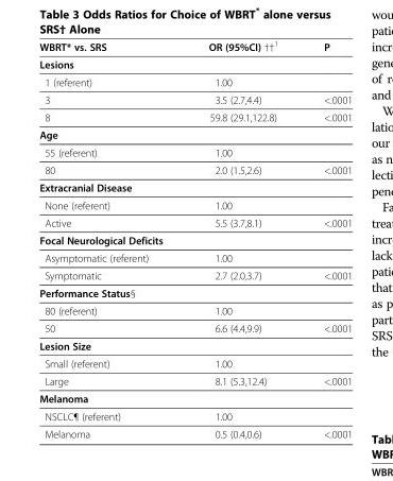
<table><thead><tr><td>WBRT* vs. SRS</td><td>OR (95%CI) ††<sup>1</sup></td><td>P</td></tr></thead><tbody><tr><td colspan="3">Lesions</td></tr><tr><td>1 (referent)</td><td>1.00</td><td></td></tr><tr><td>3</td><td>3.5 (2.7,4.4)</td><td>&lt;.0001</td></tr><tr><td>8</td><td>59.8 (29.1,122.8)</td><td>&lt;.0001</td></tr><tr><td colspan="3">Age</td></tr><tr><td>55 (referent)</td><td>1.00</td><td></td></tr><tr><td>80</td><td>2.0 (1.5,2.6)</td><td>&lt;.0001</td></tr><tr><td colspan="3">Extracranial Disease</td></tr><tr><td>None (referent)</td><td>1.00</td><td></td></tr><tr><td>Active</td><td>5.5 (3.7,8.1)</td><td>&lt;.0001</td></tr><tr><td colspan="3">Focal Neurological Deficits</td></tr><tr><td>Asymptomatic (referent)</td><td>1.00</td><td></td></tr><tr><td>Symptomatic</td><td>2.7 (2.0,3.7)</td><td>&lt;.0001</td></tr><tr><td colspan="3">Performance Status§</td></tr><tr><td>80 (referent)</td><td>1.00</td><td></td></tr><tr><td>50</td><td>6.6 (4.4,9.9)</td><td>&lt;.0001</td></tr><tr><td colspan="3">Lesion Size</td></tr><tr><td>Small (referent)</td><td>1.00</td><td></td></tr><tr><td>Large</td><td>8.1 (5.3,12.4)</td><td>&lt;.0001</td></tr><tr><td colspan="3">Melanoma</td></tr><tr><td>NSCLC¶ (referent)</td><td>1.00</td><td></td></tr><tr><td>Melanoma</td><td>0.5 (0.4,0.6)</td><td>&lt;.0001</td></tr></tbody></table>